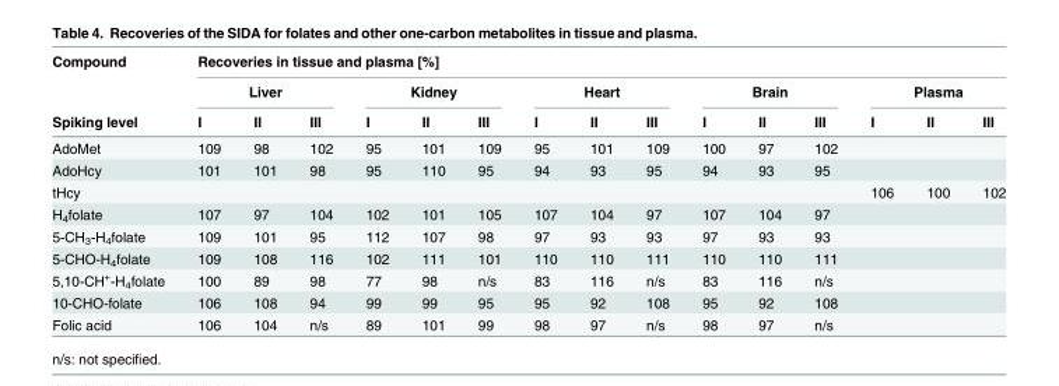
<table><thead><tr><td rowspan="3">Compound Spiking level</td><td colspan="15">Recoveries in tissue and plasma [%]</td></tr><tr><td colspan="3">Liver</td><td colspan="3">Kidney</td><td colspan="3">Heart</td><td colspan="3">Brain</td><td colspan="3">Plasma</td></tr><tr><td>I</td><td>II</td><td>III</td><td>I</td><td>II</td><td>III</td><td>I</td><td>II</td><td>III</td><td>I</td><td>II</td><td>III</td><td>I</td><td>II</td><td>III</td></tr></thead><tbody><tr><td>AdoMet</td><td>109</td><td>98</td><td>102</td><td>95</td><td>101</td><td>109</td><td>95</td><td>101</td><td>109</td><td>100</td><td>97</td><td>102</td><td></td><td></td><td></td></tr><tr><td>AdoHcy</td><td>101</td><td>101</td><td>98</td><td>95</td><td>110</td><td>95</td><td>94</td><td>93</td><td>95</td><td>94</td><td>93</td><td>95</td><td></td><td></td><td></td></tr><tr><td>tHcy</td><td></td><td></td><td></td><td></td><td></td><td></td><td></td><td></td><td></td><td></td><td></td><td></td><td>106</td><td>100</td><td>102</td></tr><tr><td>H<sub>4</sub>folate</td><td>107</td><td>97</td><td>104</td><td>102</td><td>101</td><td>105</td><td>107</td><td>104</td><td>97</td><td>107</td><td>104</td><td>97</td><td></td><td></td><td></td></tr><tr><td>5-CH<sub>3</sub>-H<sub>4</sub>folate</td><td>109</td><td>101</td><td>95</td><td>112</td><td>107</td><td>98</td><td>97</td><td>93</td><td>93</td><td>97</td><td>93</td><td>93</td><td></td><td></td><td></td></tr><tr><td>5-CHO-H<sub>4</sub>folate</td><td>109</td><td>108</td><td>116</td><td>102</td><td>111</td><td>101</td><td>110</td><td>110</td><td>111</td><td>110</td><td>110</td><td>111</td><td></td><td></td><td></td></tr><tr><td>5,10-CH<sup>+</sup>-H<sub>4</sub>folate</td><td>100</td><td>89</td><td>98</td><td>77</td><td>98</td><td>n/s</td><td>83</td><td>116</td><td>n/s</td><td>83</td><td>116</td><td>n/s</td><td></td><td></td><td></td></tr><tr><td>10-CHO-folate</td><td>106</td><td>108</td><td>94</td><td>99</td><td>99</td><td>95</td><td>95</td><td>92</td><td>108</td><td>95</td><td>92</td><td>108</td><td></td><td></td><td></td></tr><tr><td>Folic acid</td><td>106</td><td>104</td><td>n/s</td><td>89</td><td>101</td><td>99</td><td>98</td><td>97</td><td>n/s</td><td>98</td><td>97</td><td>n/s</td><td></td><td></td><td></td></tr></tbody></table>